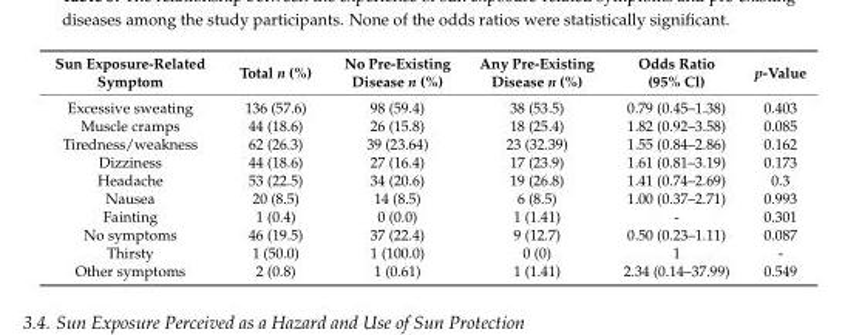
<table><thead><tr><td>Sun Exposure-Related Symptom</td><td>Total n (%)</td><td>No Pre-Existing Disease n (%)</td><td>Any Pre-Existing Disease n (%)</td><td>Odds Ratio (95% Cl)</td><td>p-Value</td></tr></thead><tbody><tr><td>Excessive sweating</td><td>136 (57.6)</td><td>98 (59.4)</td><td>38 (53.5)</td><td>0.79 (0.45–1.38)</td><td>0.403</td></tr><tr><td>Muscle cramps</td><td>44 (18.6)</td><td>26 (15.8)</td><td>18 (25.4)</td><td>1.82 (0.92–3.58)</td><td>0.085</td></tr><tr><td>Tiredness/weakness</td><td>62 (26.3)</td><td>39 (23.64)</td><td>23 (32.39)</td><td>1.55 (0.84–2.86)</td><td>0.162</td></tr><tr><td>Dizziness</td><td>44 (18.6)</td><td>27 (16.4)</td><td>17 (23.9)</td><td>1.61 (0.81–3.19)</td><td>0.173</td></tr><tr><td>Headache</td><td>53 (22.5)</td><td>34 (20.6)</td><td>19 (26.8)</td><td>1.41 (0.74–2.69)</td><td>0.3</td></tr><tr><td>Nausea</td><td>20 (8.5)</td><td>14 (8.5)</td><td>6 (8.5)</td><td>1.00 (0.37–2.71)</td><td>0.993</td></tr><tr><td>Fainting</td><td>1 (0.4)</td><td>0 (0.0)</td><td>1 (1.41)</td><td>-</td><td>0.301</td></tr><tr><td>No symptoms</td><td>46 (19.5)</td><td>37 (22.4)</td><td>9 (12.7)</td><td>0.50 (0.23–1.11)</td><td>0.087</td></tr><tr><td>Thirsty</td><td>1 (50.0)</td><td>1 (100.0)</td><td>0 (0)</td><td>1</td><td>-</td></tr><tr><td>Other symptoms</td><td>2 (0.8)</td><td>1 (0.61)</td><td>1 (1.41)</td><td>2.34 (0.14–37.99)</td><td>0.549</td></tr></tbody></table>